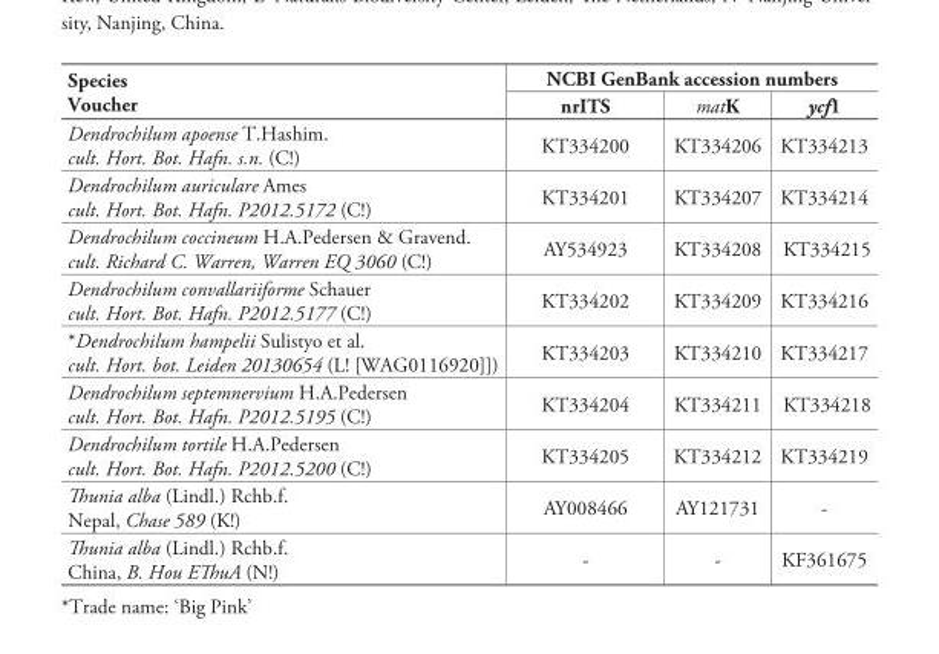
<table><thead><tr><td rowspan="2">Species Voucher</td><td colspan="3">NCBI GenBank accession numbers</td></tr><tr><td>nrITS</td><td>matK</td><td>ycf1</td></tr></thead><tbody><tr><td>Dendrochilum apoense T.Hashim. cult. Hort. Bot. Hafn. s.n. (C!)</td><td>KT334200</td><td>KT334206</td><td>KT334213</td></tr><tr><td>Dendrochilum auriculare Ames cult. Hort. Bot. Hafn. P2012.5172 (C!)</td><td>KT334201</td><td>KT334207</td><td>KT334214</td></tr><tr><td>Dendrochilum coccineum H.A.Pedersen &amp; Gravend. cult. Richard C. Warren, Warren EQ 3060 (C!)</td><td>AY534923</td><td>KT334208</td><td>KT334215</td></tr><tr><td>Dendrochilum convallariiforme Schauer cult. Hort. Bot. Hafn. P2012.5177 (C!)</td><td>KT334202</td><td>KT334209</td><td>KT334216</td></tr><tr><td>*Dendrochilum hampelii Sulistyo et al. cult. Hort. bot. Leiden 20130654 (L! [WAG0116920]])</td><td>KT334203</td><td>KT334210</td><td>KT334217</td></tr><tr><td>Dendrochilum septemnervium H.A.Pedersen cult. Hort. Bot. Hafn. P2012.5195 (C!)</td><td>KT334204</td><td>KT334211</td><td>KT334218</td></tr><tr><td>Dendrochilum tortile H.A.Pedersen cult. Hort. Bot. Hafn. P2012.5200 (C!)</td><td>KT334205</td><td>KT334212</td><td>KT334219</td></tr><tr><td>Th unia alba (Lindl.) Rchb.f. Nepal, Chase 589 (K!)</td><td>AY008466</td><td>AY121731</td><td>-</td></tr><tr><td>Th unia alba (Lindl.) Rchb.f. China, B. Hou ETh uA (N!)</td><td>-</td><td>-</td><td>KF361675</td></tr></tbody></table>